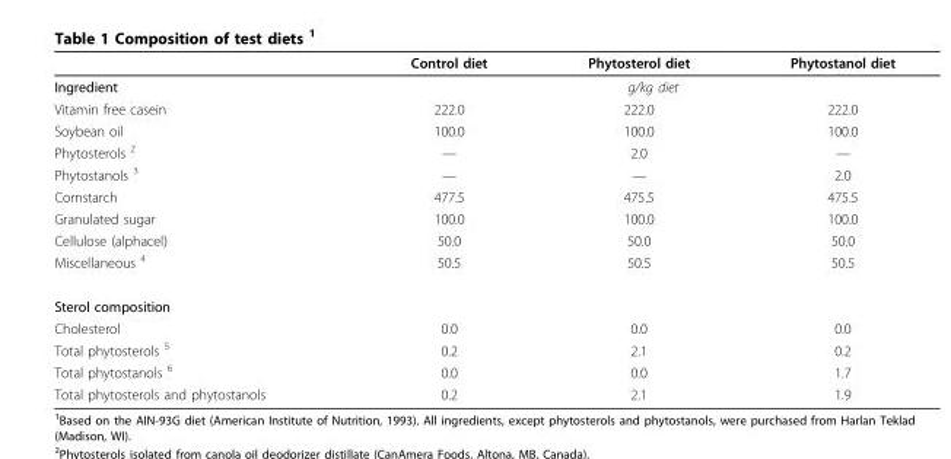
<table><thead><tr><td></td><td>Control diet</td><td>Phytosterol diet</td><td>Phytostanol diet</td></tr></thead><tbody><tr><td>Ingredient</td><td colspan="3">g/kg diet</td></tr><tr><td>Vitamin free casein</td><td>222.0</td><td>222.0</td><td>222.0</td></tr><tr><td>Soybean oil</td><td>100.0</td><td>100.0</td><td>100.0</td></tr><tr><td>Phytosterols <sup>2</sup></td><td>—</td><td>2.0</td><td>—</td></tr><tr><td>Phytostanols <sup>3</sup></td><td>—</td><td>—</td><td>2.0</td></tr><tr><td>Cornstarch</td><td>477.5</td><td>475.5</td><td>475.5</td></tr><tr><td>Granulated sugar</td><td>100.0</td><td>100.0</td><td>100.0</td></tr><tr><td>Cellulose (alphacel)</td><td>50.0</td><td>50.0</td><td>50.0</td></tr><tr><td>Miscellaneous <sup>4</sup></td><td>50.5</td><td>50.5</td><td>50.5</td></tr><tr><td colspan="4">Sterol composition</td></tr><tr><td>Cholesterol</td><td>0.0</td><td>0.0</td><td>0.0</td></tr><tr><td>Total phytosterols <sup>5</sup></td><td>0.2</td><td>2.1</td><td>0.2</td></tr><tr><td>Total phytostanols <sup>6</sup></td><td>0.0</td><td>0.0</td><td>1.7</td></tr><tr><td>Total phytosterols and phytostanols</td><td>0.2</td><td>2.1</td><td>1.9</td></tr></tbody></table>